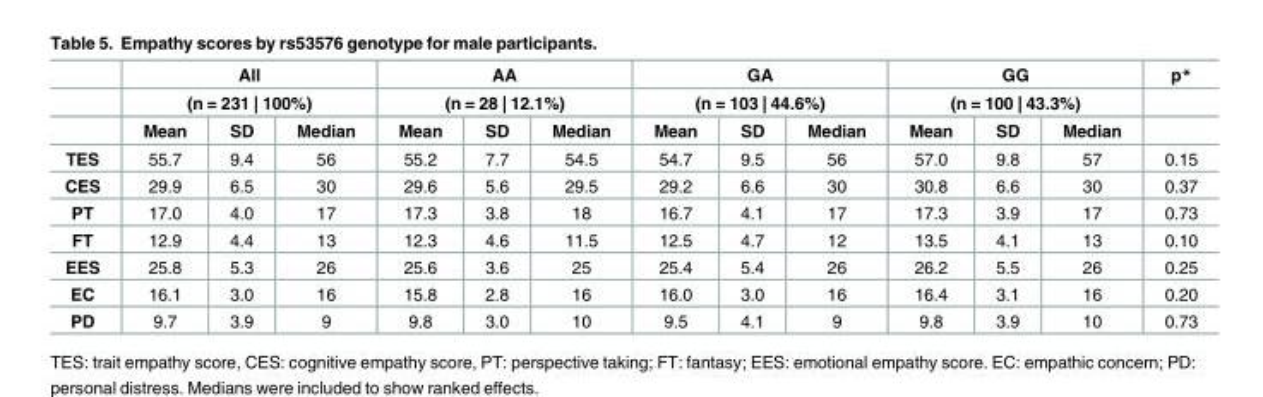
<table><thead><tr><td rowspan="3"></td><td rowspan="2" colspan="3">All (n = 231 | 100%)</td><td rowspan="2" colspan="3">AA (n = 28 | 12.1%)</td><td rowspan="2" colspan="3">GA (n = 103 | 44.6%)</td><td rowspan="2" colspan="3">GG (n = 100 | 43.3%)</td><td rowspan="3">p*</td></tr><tr></tr><tr><td>Mean</td><td>SD</td><td>Median</td><td>Mean</td><td>SD</td><td>Median</td><td>Mean</td><td>SD</td><td>Median</td><td>Mean</td><td>SD</td><td>Median</td></tr></thead><tbody><tr><td>TES</td><td>55.7</td><td>9.4</td><td>56</td><td>55.2</td><td>7.7</td><td>54.5</td><td>54.7</td><td>9.5</td><td>56</td><td>57.0</td><td>9.8</td><td>57</td><td>0.15</td></tr><tr><td>CES</td><td>29.9</td><td>6.5</td><td>30</td><td>29.6</td><td>5.6</td><td>29.5</td><td>29.2</td><td>6.6</td><td>30</td><td>30.8</td><td>6.6</td><td>30</td><td>0.37</td></tr><tr><td>PT</td><td>17.0</td><td>4.0</td><td>17</td><td>17.3</td><td>3.8</td><td>18</td><td>16.7</td><td>4.1</td><td>17</td><td>17.3</td><td>3.9</td><td>17</td><td>0.73</td></tr><tr><td>FT</td><td>12.9</td><td>4.4</td><td>13</td><td>12.3</td><td>4.6</td><td>11.5</td><td>12.5</td><td>4.7</td><td>12</td><td>13.5</td><td>4.1</td><td>13</td><td>0.10</td></tr><tr><td>EES</td><td>25.8</td><td>5.3</td><td>26</td><td>25.6</td><td>3.6</td><td>25</td><td>25.4</td><td>5.4</td><td>26</td><td>26.2</td><td>5.5</td><td>26</td><td>0.25</td></tr><tr><td>EC</td><td>16.1</td><td>3.0</td><td>16</td><td>15.8</td><td>2.8</td><td>16</td><td>16.0</td><td>3.0</td><td>16</td><td>16.4</td><td>3.1</td><td>16</td><td>0.20</td></tr><tr><td>PD</td><td>9.7</td><td>3.9</td><td>9</td><td>9.8</td><td>3.0</td><td>10</td><td>9.5</td><td>4.1</td><td>9</td><td>9.8</td><td>3.9</td><td>10</td><td>0.73</td></tr></tbody></table>